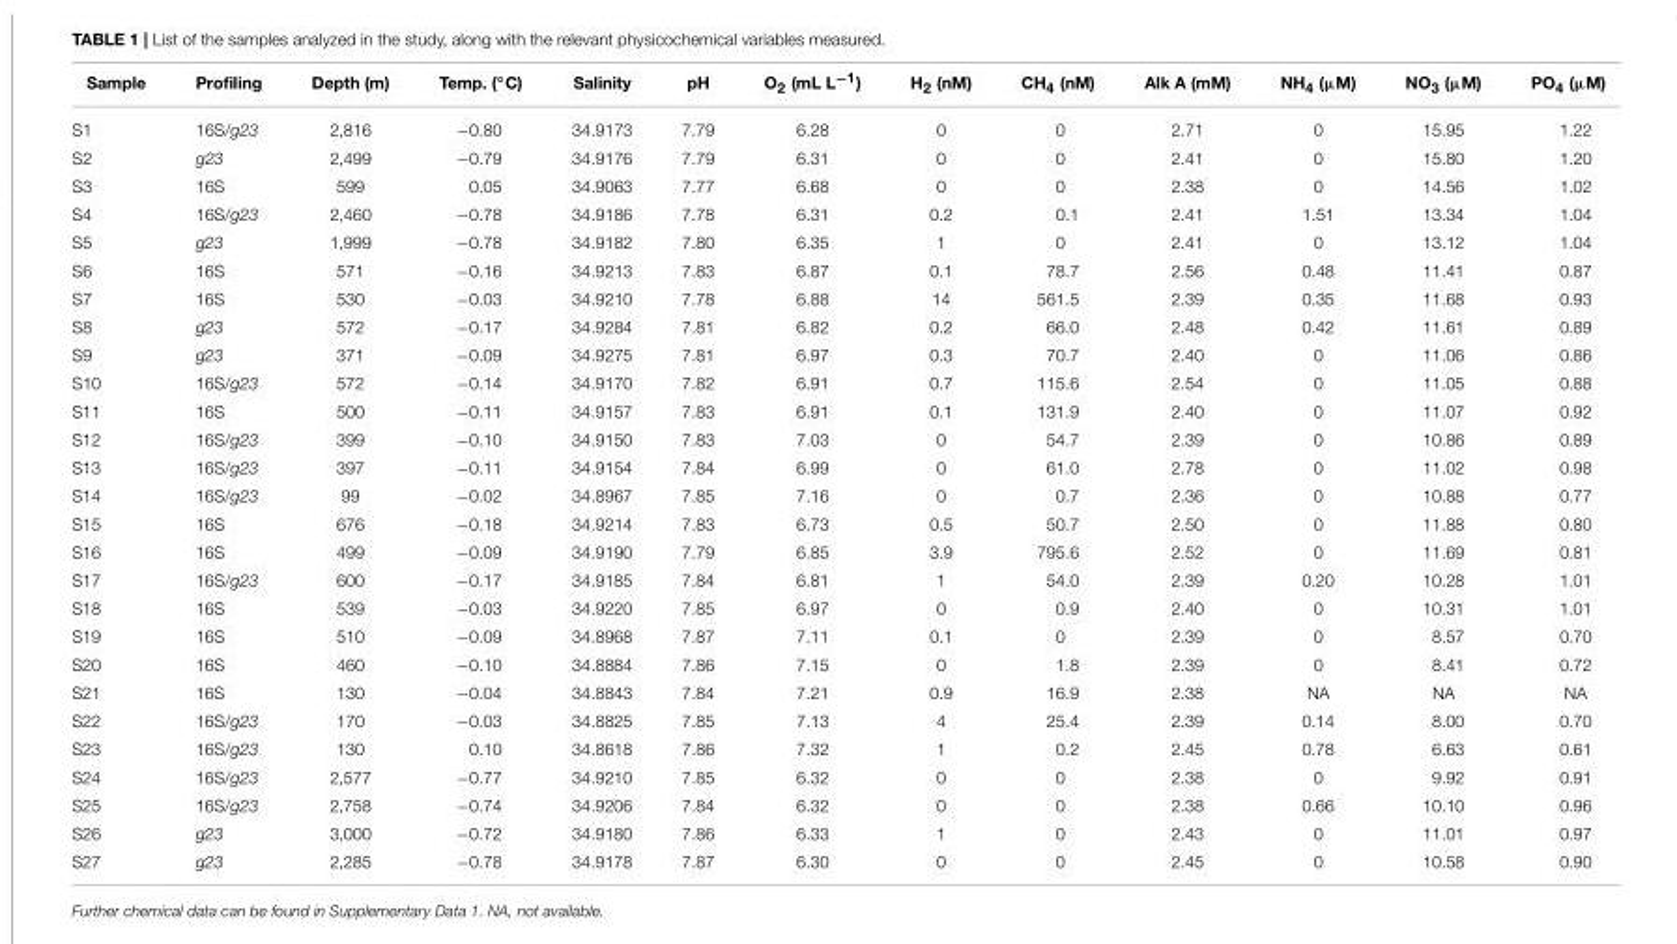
<table><thead><tr><td>Sample</td><td>Profiling</td><td>Depth (m)</td><td>Temp. (◦C)</td><td>Salinity</td><td>pH</td><td>O<sub>2</sub> (mL L<sup>−1</sup>)</td><td>H<sub>2</sub> (nM)</td><td>CH<sub>4</sub> (nM)</td><td>Alk A (mM)</td><td>NH<sub>4</sub> (µM)</td><td>NO<sub>3</sub> (µM)</td><td>PO<sub>4</sub> (µM)</td></tr></thead><tbody><tr><td>S1</td><td>16S/g23</td><td>2,816</td><td>−0.80</td><td>34.9173</td><td>7.79</td><td>6.28</td><td>0</td><td>0</td><td>2.71</td><td>0</td><td>15.95</td><td>1.22</td></tr><tr><td>S2</td><td>g23</td><td>2,499</td><td>−0.79</td><td>34.9176</td><td>7.79</td><td>6.31</td><td>0</td><td>0</td><td>2.41</td><td>0</td><td>15.80</td><td>1.20</td></tr><tr><td>S3</td><td>16S</td><td>599</td><td>0.05</td><td>34.9063</td><td>7.77</td><td>6.68</td><td>0</td><td>0</td><td>2.38</td><td>0</td><td>14.56</td><td>1.02</td></tr><tr><td>S4</td><td>16S/g23</td><td>2,460</td><td>−0.78</td><td>34.9186</td><td>7.78</td><td>6.31</td><td>0.2</td><td>0.1</td><td>2.41</td><td>1.51</td><td>13.34</td><td>1.04</td></tr><tr><td>S5</td><td>g23</td><td>1,999</td><td>−0.78</td><td>34.9182</td><td>7.80</td><td>6.35</td><td>1</td><td>0</td><td>2.41</td><td>0</td><td>13.12</td><td>1.04</td></tr><tr><td>S6</td><td>16S</td><td>571</td><td>−0.16</td><td>34.9213</td><td>7.83</td><td>6.87</td><td>0.1</td><td>78.7</td><td>2.56</td><td>0.48</td><td>11.41</td><td>0.87</td></tr><tr><td>S7</td><td>16S</td><td>530</td><td>−0.03</td><td>34.9210</td><td>7.78</td><td>6.88</td><td>14</td><td>561.5</td><td>2.39</td><td>0.35</td><td>11.68</td><td>0.93</td></tr><tr><td>S8</td><td>g23</td><td>572</td><td>−0.17</td><td>34.9284</td><td>7.81</td><td>6.82</td><td>0.2</td><td>66.0</td><td>2.48</td><td>0.42</td><td>11.61</td><td>0.89</td></tr><tr><td>S9</td><td>g23</td><td>371</td><td>−0.09</td><td>34.9275</td><td>7.81</td><td>6.97</td><td>0.3</td><td>70.7</td><td>2.40</td><td>0</td><td>11.06</td><td>0.86</td></tr><tr><td>S10</td><td>16S/g23</td><td>572</td><td>−0.14</td><td>34.9170</td><td>7.82</td><td>6.91</td><td>0.7</td><td>115.6</td><td>2.54</td><td>0</td><td>11.05</td><td>0.88</td></tr><tr><td>S11</td><td>16S</td><td>500</td><td>−0.11</td><td>34.9157</td><td>7.83</td><td>6.91</td><td>0.1</td><td>131.9</td><td>2.40</td><td>0</td><td>11.07</td><td>0.92</td></tr><tr><td>S12</td><td>16S/g23</td><td>399</td><td>−0.10</td><td>34.9150</td><td>7.83</td><td>7.03</td><td>0</td><td>54.7</td><td>2.39</td><td>0</td><td>10.86</td><td>0.89</td></tr><tr><td>S13</td><td>16S/g23</td><td>397</td><td>−0.11</td><td>34.9154</td><td>7.84</td><td>6.99</td><td>0</td><td>61.0</td><td>2.78</td><td>0</td><td>11.02</td><td>0.98</td></tr><tr><td>S14</td><td>16S/g23</td><td>99</td><td>−0.02</td><td>34.8967</td><td>7.85</td><td>7.16</td><td>0</td><td>0.7</td><td>2.36</td><td>0</td><td>10.88</td><td>0.77</td></tr><tr><td>S15</td><td>16S</td><td>676</td><td>−0.18</td><td>34.9214</td><td>7.83</td><td>6.73</td><td>0.5</td><td>50.7</td><td>2.50</td><td>0</td><td>11.88</td><td>0.80</td></tr><tr><td>S16</td><td>16S</td><td>499</td><td>−0.09</td><td>34.9190</td><td>7.79</td><td>6.85</td><td>3.9</td><td>795.6</td><td>2.52</td><td>0</td><td>11.69</td><td>0.81</td></tr><tr><td>S17</td><td>16S/g23</td><td>600</td><td>−0.17</td><td>34.9185</td><td>7.84</td><td>6.81</td><td>1</td><td>54.0</td><td>2.39</td><td>0.20</td><td>10.28</td><td>1.01</td></tr><tr><td>S18</td><td>16S</td><td>539</td><td>−0.03</td><td>34.9220</td><td>7.85</td><td>6.97</td><td>0</td><td>0.9</td><td>2.40</td><td>0</td><td>10.31</td><td>1.01</td></tr><tr><td>S19</td><td>16S</td><td>510</td><td>−0.09</td><td>34.8968</td><td>7.87</td><td>7.11</td><td>0.1</td><td>0</td><td>2.39</td><td>0</td><td>8.57</td><td>0.70</td></tr><tr><td>S20</td><td>16S</td><td>460</td><td>−0.10</td><td>34.8884</td><td>7.86</td><td>7.15</td><td>0</td><td>1.8</td><td>2.39</td><td>0</td><td>8.41</td><td>0.72</td></tr><tr><td>S21</td><td>16S</td><td>130</td><td>−0.04</td><td>34.8843</td><td>7.84</td><td>7.21</td><td>0.9</td><td>16.9</td><td>2.38</td><td>NA</td><td>NA</td><td>NA</td></tr><tr><td>S22</td><td>16S/g23</td><td>170</td><td>−0.03</td><td>34.8825</td><td>7.85</td><td>7.13</td><td>4</td><td>25.4</td><td>2.39</td><td>0.14</td><td>8.00</td><td>0.70</td></tr><tr><td>S23</td><td>16S/g23</td><td>130</td><td>0.10</td><td>34.8618</td><td>7.86</td><td>7.32</td><td>1</td><td>0.2</td><td>2.45</td><td>0.78</td><td>6.63</td><td>0.61</td></tr><tr><td>S24</td><td>16S/g23</td><td>2,577</td><td>−0.77</td><td>34.9210</td><td>7.85</td><td>6.32</td><td>0</td><td>0</td><td>2.38</td><td>0</td><td>9.92</td><td>0.91</td></tr><tr><td>S25</td><td>16S/g23</td><td>2,758</td><td>−0.74</td><td>34.9206</td><td>7.84</td><td>6.32</td><td>0</td><td>0</td><td>2.38</td><td>0.66</td><td>10.10</td><td>0.96</td></tr><tr><td>S26</td><td>g23</td><td>3,000</td><td>−0.72</td><td>34.9180</td><td>7.86</td><td>6.33</td><td>1</td><td>0</td><td>2.43</td><td>0</td><td>11.01</td><td>0.97</td></tr><tr><td>S27</td><td>g23</td><td>2,285</td><td>−0.78</td><td>34.9178</td><td>7.87</td><td>6.30</td><td>0</td><td>0</td><td>2.45</td><td>0</td><td>10.58</td><td>0.90</td></tr></tbody></table>